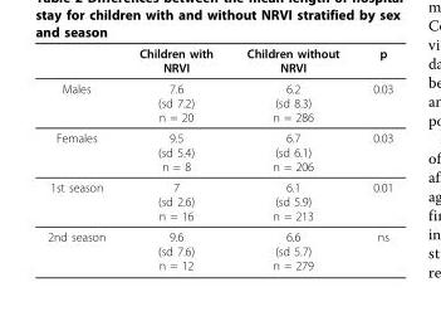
<table><thead><tr><td></td><td>Children with NRVI</td><td>Children without NRVI</td><td>p</td></tr></thead><tbody><tr><td>Males</td><td>7.6 (sd 7.2) n = 20</td><td>6.2 (sd 8.3) n = 286</td><td>0.03</td></tr><tr><td>Females</td><td>9.5 (sd 5.4) n = 8</td><td>6.7 (sd 6.1) n = 206</td><td>0.03</td></tr><tr><td>1st season</td><td>7 (sd 2.6) n = 16</td><td>6.1 (sd 5.9) n = 213</td><td>0.01</td></tr><tr><td>2nd season</td><td>9.6 (sd 7.6) n = 12</td><td>6.6 (sd 5.7) n = 279</td><td>ns</td></tr></tbody></table>